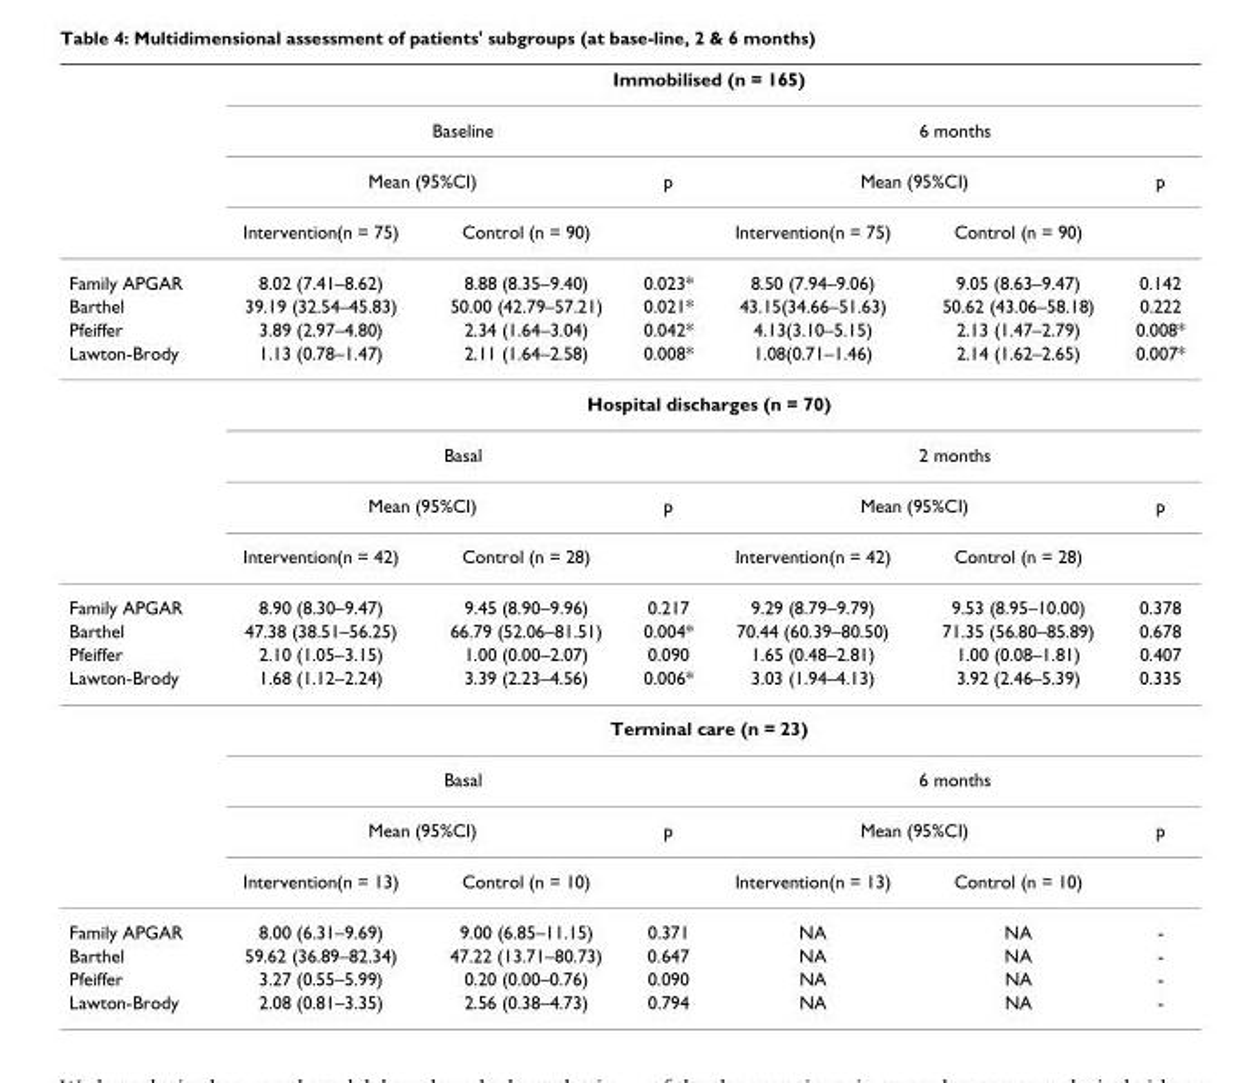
<table><thead><tr><td rowspan="4"></td><td colspan="6">Immobilised (n = 165)</td></tr><tr><td colspan="3">Baseline</td><td colspan="3">6 months</td></tr><tr><td colspan="2">Mean (95%CI)</td><td rowspan="2">p</td><td colspan="2">Mean (95%CI)</td><td rowspan="2">p</td></tr><tr><td>Intervention(n = 75)</td><td>Control (n = 90)</td><td>Intervention(n = 75)</td><td>Control (n = 90)</td></tr></thead><tbody><tr><td>Family APGAR</td><td>8.02 (7.41–8.62)</td><td>8.88 (8.35–9.40)</td><td>0.023*</td><td>8.50 (7.94–9.06)</td><td>9.05 (8.63–9.47)</td><td>0.142</td></tr><tr><td>Barthel</td><td>39.19 (32.54–45.83)</td><td>50.00 (42.79–57.21)</td><td>0.021*</td><td>43.15(34.66–51.63)</td><td>50.62 (43.06–58.18)</td><td>0.222</td></tr><tr><td>Pfeiffer</td><td>3.89 (2.97–4.80)</td><td>2.34 (1.64–3.04)</td><td>0.042*</td><td>4.13(3.10–5.15)</td><td>2.13 (1.47–2.79)</td><td>0.008*</td></tr><tr><td rowspan="5">Lawton-Brody</td><td>1.13 (0.78–1.47)</td><td>2.11 (1.64–2.58)</td><td>0.008*</td><td>1.08(0.71–1.46)</td><td>2.14 (1.62–2.65)</td><td>0.007*</td></tr><tr><td colspan="6">Hospital discharges (n = 70)</td></tr><tr><td colspan="3">Basal</td><td colspan="3">2 months</td></tr><tr><td colspan="2">Mean (95%CI)</td><td>p</td><td colspan="2">Mean (95%CI)</td><td>p</td></tr><tr><td>Intervention(n = 42)</td><td>Control (n = 28)</td><td></td><td>Intervention(n = 42)</td><td>Control (n = 28)</td><td></td></tr><tr><td>Family APGAR</td><td>8.90 (8.30–9.47)</td><td>9.45 (8.90–9.96)</td><td>0.217</td><td>9.29 (8.79–9.79)</td><td>9.53 (8.95–10.00)</td><td>0.378</td></tr><tr><td>Barthel</td><td>47.38 (38.51–56.25)</td><td>66.79 (52.06–81.51)</td><td>0.004*</td><td>70.44 (60.39–80.50)</td><td>71.35 (56.80–85.89)</td><td>0.678</td></tr><tr><td>Pfeiffer</td><td>2.10 (1.05–3.15)</td><td>1.00 (0.00–2.07)</td><td>0.090</td><td>1.65 (0.48–2.81)</td><td>1.00 (0.08–1.81)</td><td>0.407</td></tr><tr><td rowspan="5">Lawton-Brody</td><td>1.68 (1.12–2.24)</td><td>3.39 (2.23–4.56)</td><td>0.006*</td><td>3.03 (1.94–4.13)</td><td>3.92 (2.46–5.39)</td><td>0.335</td></tr><tr><td colspan="6">Terminal care (n = 23)</td></tr><tr><td colspan="3">Basal</td><td colspan="3">6 months</td></tr><tr><td colspan="2">Mean (95%CI)</td><td>p</td><td colspan="2">Mean (95%CI)</td><td>p</td></tr><tr><td>Intervention(n = 13)</td><td>Control (n = 10)</td><td></td><td>Intervention(n = 13)</td><td>Control (n = 10)</td><td></td></tr><tr><td>Family APGAR</td><td>8.00 (6.31–9.69)</td><td>9.00 (6.85–11.15)</td><td>0.371</td><td>NA</td><td>NA</td><td>-</td></tr><tr><td>Barthel</td><td>59.62 (36.89–82.34)</td><td>47.22 (13.71–80.73)</td><td>0.647</td><td>NA</td><td>NA</td><td>-</td></tr><tr><td>Pfeiffer</td><td>3.27 (0.55–5.99)</td><td>0.20 (0.00–0.76)</td><td>0.090</td><td>NA</td><td>NA</td><td>-</td></tr><tr><td>Lawton-Brody</td><td>2.08 (0.81–3.35)</td><td>2.56 (0.38–4.73)</td><td>0.794</td><td>NA</td><td>NA</td><td>-</td></tr></tbody></table>